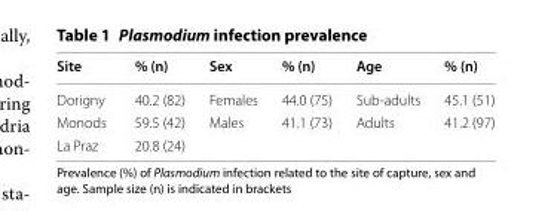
<table><thead><tr><td>Site</td><td>% (n)</td><td>Sex</td><td>% (n)</td><td>Age</td><td>% (n)</td></tr></thead><tbody><tr><td>Dorigny</td><td>40.2 (82)</td><td>Females</td><td>44.0 (75)</td><td>Sub-adults</td><td>45.1 (51)</td></tr><tr><td>Monods</td><td>59.5 (42)</td><td>Males</td><td>41.1 (73)</td><td>Adults</td><td>41.2 (97)</td></tr><tr><td>La Praz</td><td>20.8 (24)</td><td></td><td></td><td></td><td></td></tr></tbody></table>